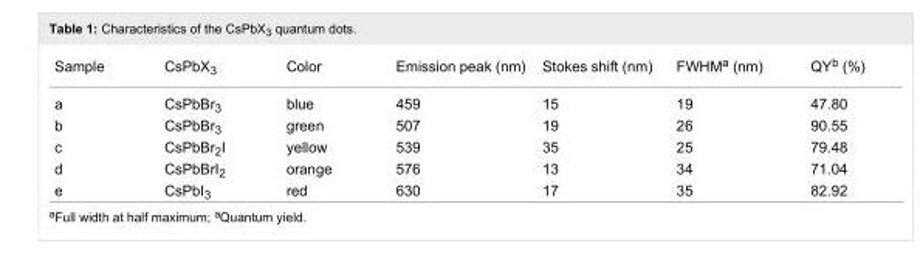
<table><tbody><tr><td>Sample</td><td>CsPbX<sub>3</sub></td><td>Color</td><td>Emission peak (nm)</td><td>Stokes shift (nm)</td><td>FWHM<sup>a</sup> (nm)</td><td>QY<sup>b</sup> (%)</td></tr><tr><td>a</td><td>CsPbBr<sub>3</sub></td><td>blue</td><td>459</td><td>15</td><td>19</td><td>47.80</td></tr><tr><td>b</td><td>CsPbBr<sub>3</sub></td><td>green</td><td>507</td><td>19</td><td>26</td><td>90.55</td></tr><tr><td>c</td><td>CsPbBr<sub>2</sub>I</td><td>yellow</td><td>539</td><td>35</td><td>25</td><td>79.48</td></tr><tr><td>d</td><td>CsPbBrI<sub>2</sub></td><td>orange</td><td>576</td><td>13</td><td>34</td><td>71.04</td></tr><tr><td>e</td><td>CsPbI<sub>3</sub></td><td>red</td><td>630</td><td>17</td><td>35</td><td>82.92</td></tr></tbody></table>